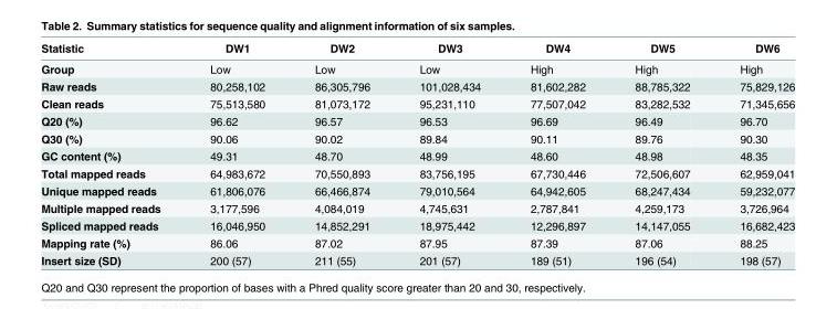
<table><thead><tr><td>Statistic</td><td>DW1</td><td>DW2</td><td>DW3</td><td>DW4</td><td>DW5</td><td>DW6</td></tr></thead><tbody><tr><td>Group</td><td>Low</td><td>Low</td><td>Low</td><td>High</td><td>High</td><td>High</td></tr><tr><td>Raw reads</td><td>80,258,102</td><td>86,305,796</td><td>101,028,434</td><td>81,602,282</td><td>88,785,322</td><td>75,829,126</td></tr><tr><td>Clean reads</td><td>75,513,580</td><td>81,073,172</td><td>95,231,110</td><td>77,507,042</td><td>83,282,532</td><td>71,345,656</td></tr><tr><td>Q20 (%)</td><td>96.62</td><td>96.57</td><td>96.53</td><td>96.69</td><td>96.49</td><td>96.70</td></tr><tr><td>Q30 (%)</td><td>90.06</td><td>90.02</td><td>89.84</td><td>90.11</td><td>89.76</td><td>90.30</td></tr><tr><td>GC content (%)</td><td>49.31</td><td>48.70</td><td>48.99</td><td>48.60</td><td>48.98</td><td>48.35</td></tr><tr><td>Total mapped reads</td><td>64,983,672</td><td>70,550,893</td><td>83,756,195</td><td>67,730,446</td><td>72,506,607</td><td>62,959,041</td></tr><tr><td>Unique mapped reads</td><td>61,806,076</td><td>66,466,874</td><td>79,010,564</td><td>64,942,605</td><td>68,247,434</td><td>59,232,077</td></tr><tr><td>Multiple mapped reads</td><td>3,177,596</td><td>4,084,019</td><td>4,745,631</td><td>2,787,841</td><td>4,259,173</td><td>3,726,964</td></tr><tr><td>Spliced mapped reads</td><td>16,046,950</td><td>14,852,291</td><td>18,975,442</td><td>12,296,897</td><td>14,147,055</td><td>16,682,423</td></tr><tr><td>Mapping rate (%)</td><td>86.06</td><td>87.02</td><td>87.95</td><td>87.39</td><td>87.06</td><td>88.25</td></tr><tr><td>Insert size (SD)</td><td>200 (57)</td><td>211 (55)</td><td>201 (57)</td><td>189 (51)</td><td>196 (54)</td><td>198 (57)</td></tr></tbody></table>